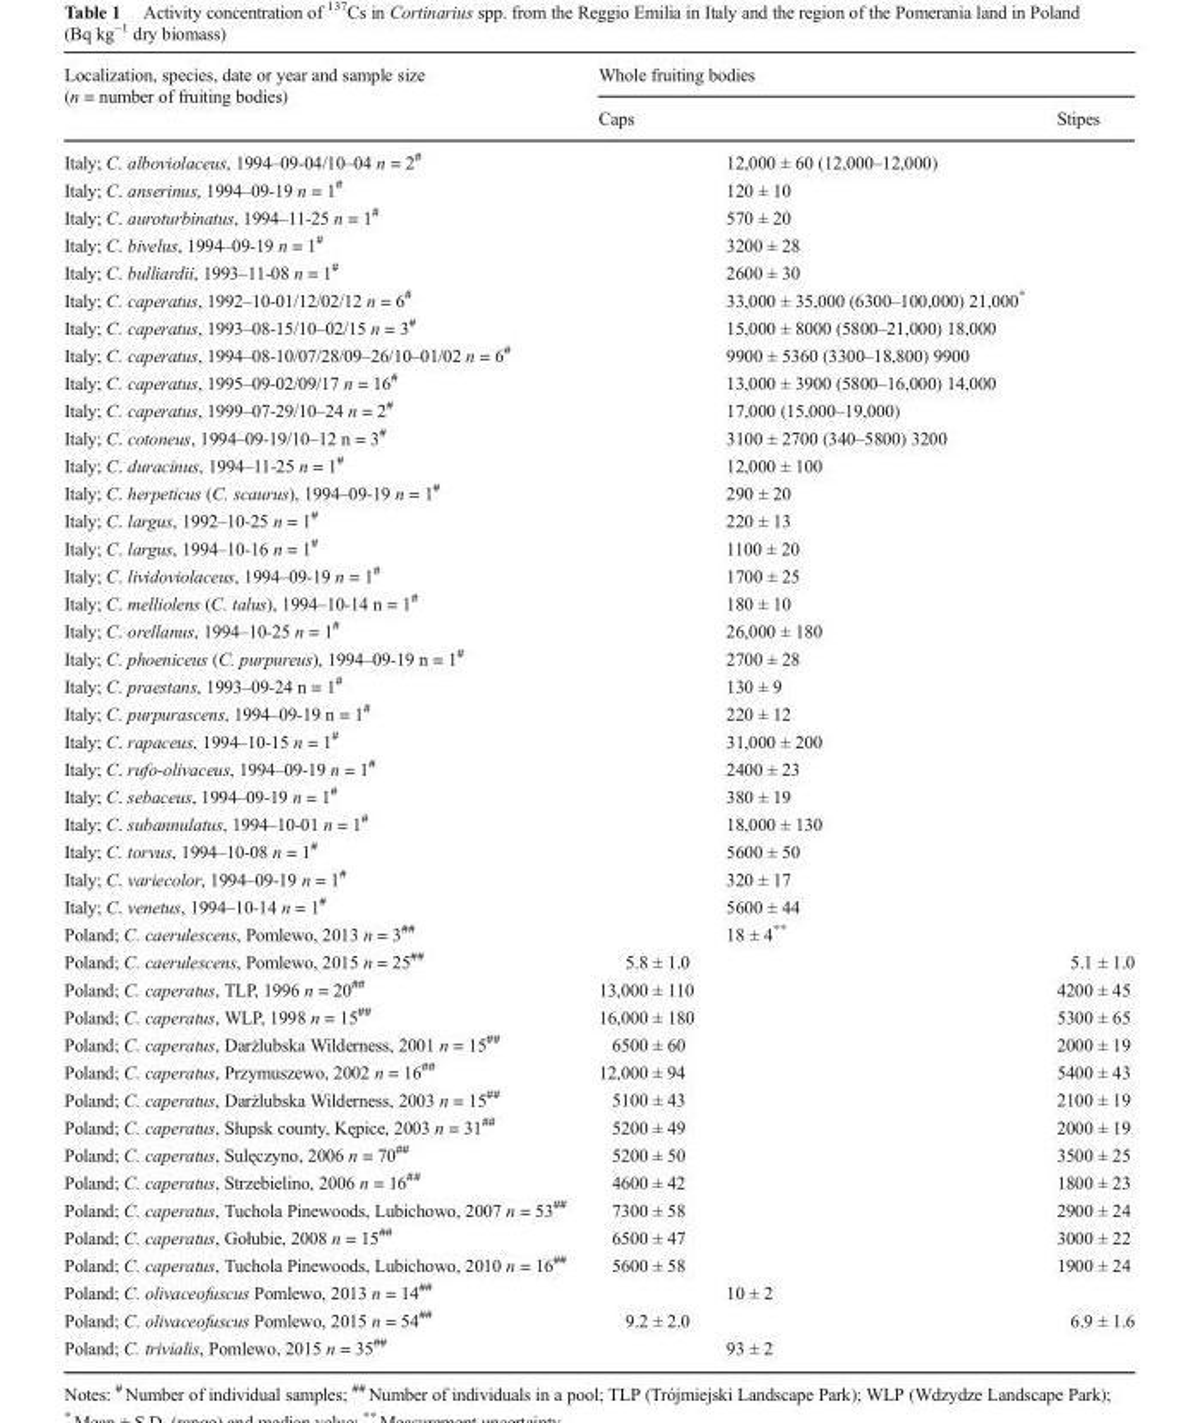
<table><thead><tr><td rowspan="3">Localization, species, date or year and sample size (n = number of fruiting bodies) Italy; C. alboviolaceus, 1994–09-04/10–04 n = 2<sup>#</sup></td><td colspan="3">Whole fruiting bodies</td></tr><tr><td colspan="2">Caps</td><td rowspan="2">Stipes</td></tr><tr><td></td><td>12,000 ± 60 (12,000–12,000)</td></tr></thead><tbody><tr><td>Italy; C. anserinus, 1994–09-19 n = 1<sup>#</sup></td><td></td><td>120 ± 10</td><td></td></tr><tr><td>Italy; C. auroturbinatus, 1994–11-25 n = 1<sup>#</sup></td><td></td><td>570 ± 20</td><td></td></tr><tr><td>Italy; C. bivelus, 1994–09-19 n = 1<sup>#</sup></td><td></td><td>3200 ± 28</td><td></td></tr><tr><td>Italy; C. bulliardii, 1993–11-08 n = 1<sup>#</sup></td><td></td><td>2600 ± 30</td><td></td></tr><tr><td>Italy; C. caperatus, 1992–10-01/12/02/12 n = 6<sup>#</sup></td><td></td><td>33,000 ± 35,000 (6300–100,000) 21,000*</td><td></td></tr><tr><td>Italy; C. caperatus, 1993–08-15/10–02/15 n = 3<sup>#</sup></td><td></td><td>15,000 ± 8000 (5800–21,000) 18,000</td><td></td></tr><tr><td>Italy; C. caperatus, 1994–08-10/07/28/09–26/10–01/02 n = 6<sup>#</sup></td><td></td><td>9900 ± 5360 (3300–18,800) 9900</td><td></td></tr><tr><td>Italy; C. caperatus, 1995–09-02/09/17 n = 16<sup>#</sup></td><td></td><td>13,000 ± 3900 (5800–16,000) 14,000</td><td></td></tr><tr><td>Italy; C. caperatus, 1999–07-29/10–24 n = 2<sup>#</sup></td><td></td><td>17,000 (15,000–19,000)</td><td></td></tr><tr><td>Italy; C. cotoneus, 1994–09-19/10–12 n = 3<sup>#</sup></td><td></td><td>3100 ± 2700 (340–5800) 3200</td><td></td></tr><tr><td>Italy; C. duracinus, 1994–11-25 n = 1<sup>#</sup></td><td></td><td>12,000 ± 100</td><td></td></tr><tr><td>Italy; C. herpeticus (C. scaurus), 1994–09-19 n = 1<sup>#</sup></td><td></td><td>290 ± 20</td><td></td></tr><tr><td>Italy; C. largus, 1992–10-25 n = 1<sup>#</sup></td><td></td><td>220 ± 13</td><td></td></tr><tr><td>Italy; C. largus, 1994–10-16 n = 1<sup>#</sup></td><td></td><td>1100 ± 20</td><td></td></tr><tr><td>Italy; C. lividoviolaceus, 1994–09-19 n = 1<sup>#</sup></td><td></td><td>1700 ± 25</td><td></td></tr><tr><td>Italy; C. melliolens (C. talus), 1994–10-14 n = 1<sup>#</sup></td><td></td><td>180 ± 10</td><td></td></tr><tr><td>Italy; C. orellanus, 1994–10-25 n = 1<sup>#</sup></td><td></td><td>26,000 ± 180</td><td></td></tr><tr><td>Italy; C. phoeniceus (C. purpureus), 1994–09-19 n = 1<sup>#</sup></td><td></td><td>2700 ± 28</td><td></td></tr><tr><td>Italy; C. praestans, 1993–09-24 n = 1<sup>#</sup></td><td></td><td>130 ± 9</td><td></td></tr><tr><td>Italy; C. purpurascens, 1994–09-19 n = 1<sup>#</sup></td><td></td><td>220 ± 12</td><td></td></tr><tr><td>Italy; C. rapaceus, 1994–10-15 n = 1<sup>#</sup></td><td></td><td>31,000 ± 200</td><td></td></tr><tr><td>Italy; C. rufo-olivaceus, 1994–09-19 n = 1<sup>#</sup></td><td></td><td>2400 ± 23</td><td></td></tr><tr><td>Italy; C. sebaceus, 1994–09-19 n = 1<sup>#</sup></td><td></td><td>380 ± 19</td><td></td></tr><tr><td>Italy; C. subannulatus, 1994–10-01 n = 1<sup>#</sup></td><td></td><td>18,000 ± 130</td><td></td></tr><tr><td>Italy; C. torvus, 1994–10-08 n = 1<sup>#</sup></td><td></td><td>5600 ± 50</td><td></td></tr><tr><td>Italy; C. variecolor, 1994–09-19 n = 1<sup>#</sup></td><td></td><td>320 ± 17</td><td></td></tr><tr><td>Italy; C. venetus, 1994–10-14 n = 1<sup>#</sup></td><td></td><td>5600 ± 44</td><td></td></tr><tr><td>Poland; C. caerulescens, Pomlewo, 2013 n = 3<sup>##</sup></td><td></td><td>18 ± 4**</td><td></td></tr><tr><td>Poland; C. caerulescens, Pomlewo, 2015 n = 25<sup>##</sup></td><td>5.8 ± 1.0</td><td></td><td>5.1 ± 1.0</td></tr><tr><td>Poland; C. caperatus, TLP, 1996 n = 20<sup>##</sup></td><td>13,000 ± 110</td><td></td><td>4200 ± 45</td></tr><tr><td>Poland; C. caperatus, WLP, 1998 n = 15<sup>##</sup></td><td>16,000 ± 180</td><td></td><td>5300 ± 65</td></tr><tr><td>Poland; C. caperatus, Darżlubska Wilderness, 2001 n = 15<sup>##</sup></td><td>6500 ± 60</td><td></td><td>2000 ± 19</td></tr><tr><td>Poland; C. caperatus, Przymuszewo, 2002 n = 16<sup>##</sup></td><td>12,000 ± 94</td><td></td><td>5400 ± 43</td></tr><tr><td>Poland; C. caperatus, Darżlubska Wilderness, 2003 n = 15<sup>##</sup></td><td>5100 ± 43</td><td></td><td>2100 ± 19</td></tr><tr><td>Poland; C. caperatus, Słupsk county, Kępice, 2003 n = 31<sup>##</sup></td><td>5200 ± 49</td><td></td><td>2000 ± 19</td></tr><tr><td>Poland; C. caperatus, Sulęczyno, 2006 n = 70<sup>##</sup></td><td>5200 ± 50</td><td></td><td>3500 ± 25</td></tr><tr><td>Poland; C. caperatus, Strzebielino, 2006 n = 16<sup>##</sup></td><td>4600 ± 42</td><td></td><td>1800 ± 23</td></tr><tr><td>Poland; C. caperatus, Tuchola Pinewoods, Lubichowo, 2007 n = 53<sup>##</sup></td><td>7300 ± 58</td><td></td><td>2900 ± 24</td></tr><tr><td>Poland; C. caperatus, Gołubie, 2008 n = 15<sup>##</sup></td><td>6500 ± 47</td><td></td><td>3000 ± 22</td></tr><tr><td>Poland; C. caperatus, Tuchola Pinewoods, Lubichowo, 2010 n = 16<sup>##</sup></td><td>5600 ± 58</td><td></td><td>1900 ± 24</td></tr><tr><td>Poland; C. olivaceofuscus Pomlewo, 2013 n = 14<sup>##</sup></td><td></td><td>10 ± 2</td><td></td></tr><tr><td>Poland; C. olivaceofuscus Pomlewo, 2015 n = 54<sup>##</sup></td><td>9.2 ± 2.0</td><td></td><td>6.9 ± 1.6</td></tr><tr><td>Poland; C. trivialis, Pomlewo, 2015 n = 35<sup>##</sup></td><td></td><td>93 ± 2</td><td></td></tr></tbody></table>